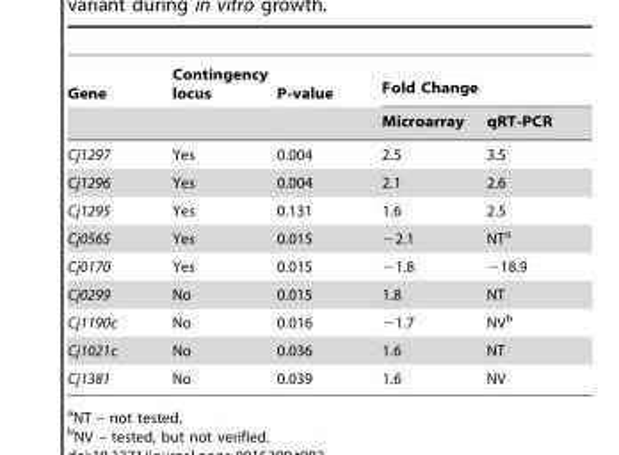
<table><thead><tr><td rowspan="2">Gene</td><td rowspan="2">Contingency locus</td><td rowspan="2">P-value</td><td colspan="2">Fold Change</td></tr><tr><td>Microarray</td><td>qRT-PCR</td></tr></thead><tbody><tr><td>Cj1297</td><td>Yes</td><td>0.004</td><td>2.5</td><td>3.5</td></tr><tr><td>Cj1296</td><td>Yes</td><td>0.004</td><td>2.1</td><td>2.6</td></tr><tr><td>Cj1295</td><td>Yes</td><td>0.131</td><td>1.6</td><td>2.5</td></tr><tr><td>Cj0565</td><td>Yes</td><td>0.015</td><td>−2.1</td><td>NT<sup>a</sup></td></tr><tr><td>Cj0170</td><td>Yes</td><td>0.015</td><td>−1.8</td><td>−18.9</td></tr><tr><td>Cj0299</td><td>No</td><td>0.015</td><td>1.8</td><td>NT</td></tr><tr><td>Cj1190c</td><td>No</td><td>0.016</td><td>−1.7</td><td>NV<sup>b</sup></td></tr><tr><td>Cj1021c</td><td>No</td><td>0.036</td><td>1.6</td><td>NT</td></tr><tr><td>Cj1381</td><td>No</td><td>0.039</td><td>1.6</td><td>NV</td></tr></tbody></table>